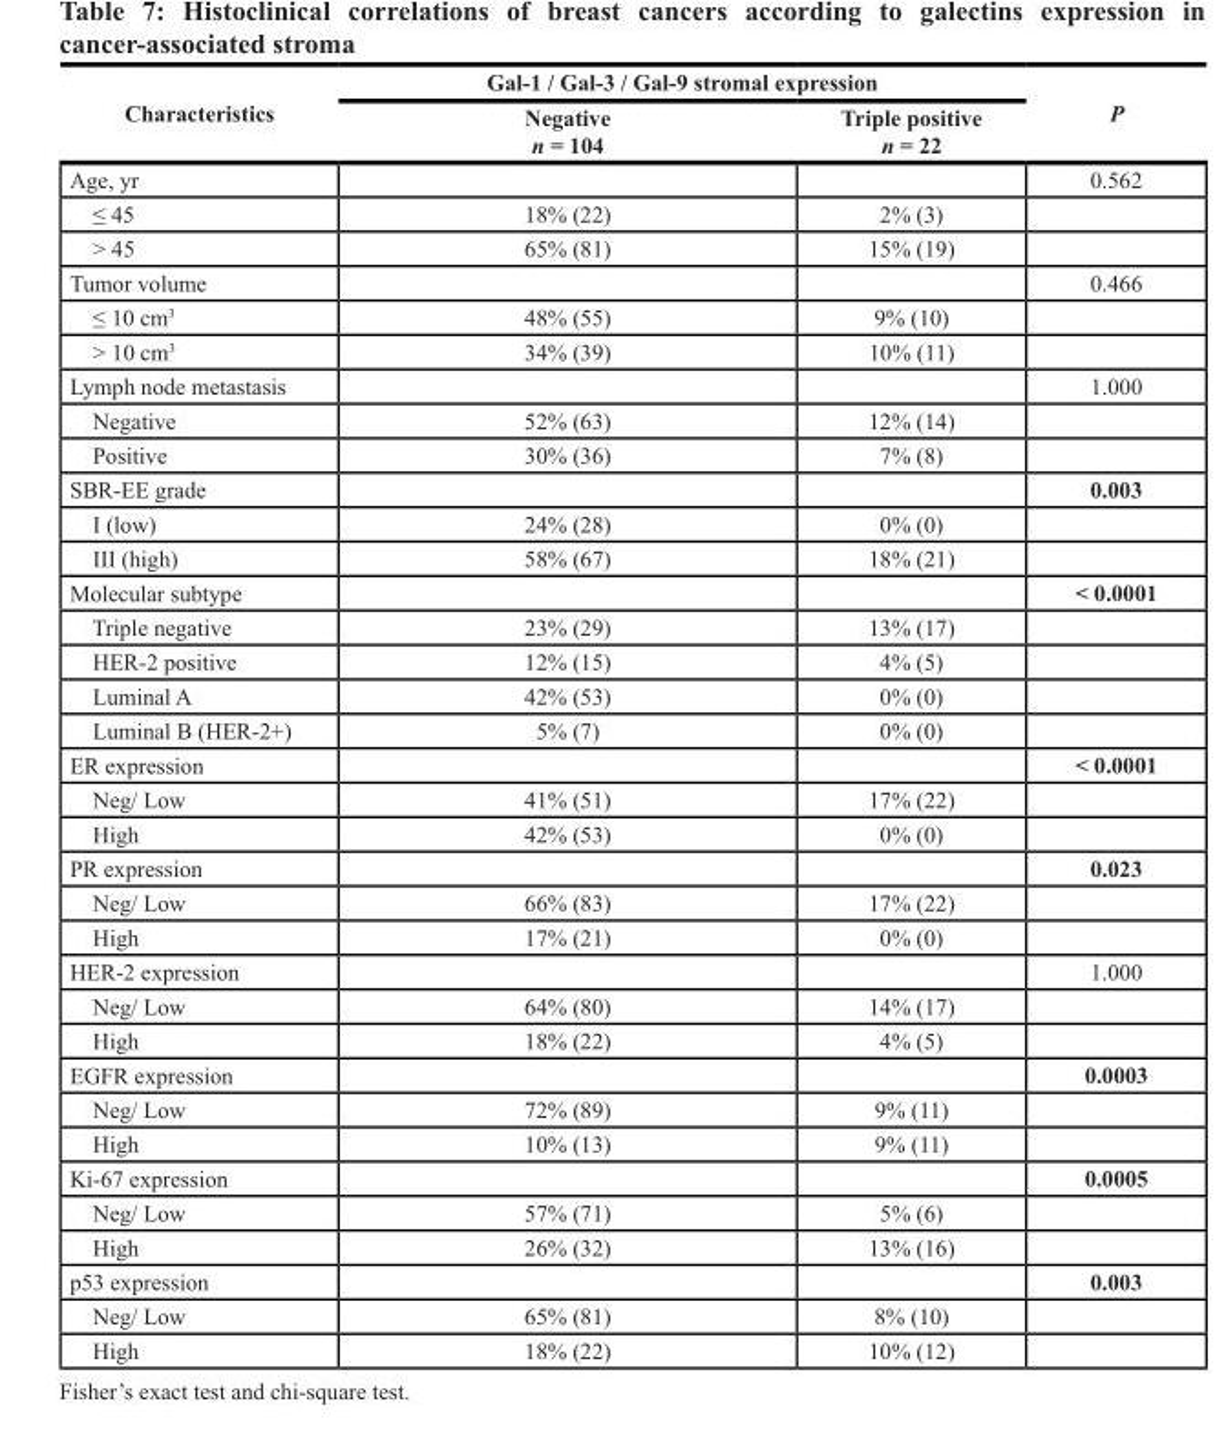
<table><thead><tr><td rowspan="2">Characteristics</td><td colspan="2">Gal-1 / Gal-3 / Gal-9 stromal expression</td><td rowspan="2">P</td></tr><tr><td>Negative n = 104</td><td>Triple positive n = 22</td></tr></thead><tbody><tr><td>Age, yr</td><td></td><td></td><td>0.562</td></tr><tr><td>≤ 45</td><td>18% (22)</td><td>2% (3)</td><td></td></tr><tr><td>&gt; 45</td><td>65% (81)</td><td>15% (19)</td><td></td></tr><tr><td>Tumor volume</td><td></td><td></td><td>0.466</td></tr><tr><td>≤ 10 cm<sup>3</sup></td><td>48% (55)</td><td>9% (10)</td><td></td></tr><tr><td>&gt; 10 cm<sup>3</sup></td><td>34% (39)</td><td>10% (11)</td><td></td></tr><tr><td>Lymph node metastasis</td><td></td><td></td><td>1.000</td></tr><tr><td>Negative</td><td>52% (63)</td><td>12% (14)</td><td></td></tr><tr><td>Positive</td><td>30% (36)</td><td>7% (8)</td><td></td></tr><tr><td>SBR-EE grade</td><td></td><td></td><td>0.003</td></tr><tr><td>I (low)</td><td>24% (28)</td><td>0% (0)</td><td></td></tr><tr><td>III (high)</td><td>58% (67)</td><td>18% (21)</td><td></td></tr><tr><td>Molecular subtype</td><td></td><td></td><td>&lt; 0.0001</td></tr><tr><td>Triple negative</td><td>23% (29)</td><td>13% (17)</td><td></td></tr><tr><td>HER-2 positive</td><td>12% (15)</td><td>4% (5)</td><td></td></tr><tr><td>Luminal A</td><td>42% (53)</td><td>0% (0)</td><td></td></tr><tr><td>Luminal B (HER-2+)</td><td>5% (7)</td><td>0% (0)</td><td></td></tr><tr><td>ER expression</td><td></td><td></td><td>&lt; 0.0001</td></tr><tr><td>Neg/ Low</td><td>41% (51)</td><td>17% (22)</td><td></td></tr><tr><td>High</td><td>42% (53)</td><td>0% (0)</td><td></td></tr><tr><td>PR expression</td><td></td><td></td><td>0.023</td></tr><tr><td>Neg/ Low</td><td>66% (83)</td><td>17% (22)</td><td></td></tr><tr><td>High</td><td>17% (21)</td><td>0% (0)</td><td></td></tr><tr><td>HER-2 expression</td><td></td><td></td><td>1.000</td></tr><tr><td>Neg/ Low</td><td>64% (80)</td><td>14% (17)</td><td></td></tr><tr><td>High</td><td>18% (22)</td><td>4% (5)</td><td></td></tr><tr><td>EGFR expression</td><td></td><td></td><td>0.0003</td></tr><tr><td>Neg/ Low</td><td>72% (89)</td><td>9% (11)</td><td></td></tr><tr><td>High</td><td>10% (13)</td><td>9% (11)</td><td></td></tr><tr><td>Ki-67 expression</td><td></td><td></td><td>0.0005</td></tr><tr><td>Neg/ Low</td><td>57% (71)</td><td>5% (6)</td><td></td></tr><tr><td>High</td><td>26% (32)</td><td>13% (16)</td><td></td></tr><tr><td>p53 expression</td><td></td><td></td><td>0.003</td></tr><tr><td>Neg/ Low</td><td>65% (81)</td><td>8% (10)</td><td></td></tr><tr><td>High</td><td>18% (22)</td><td>10% (12)</td><td></td></tr></tbody></table>